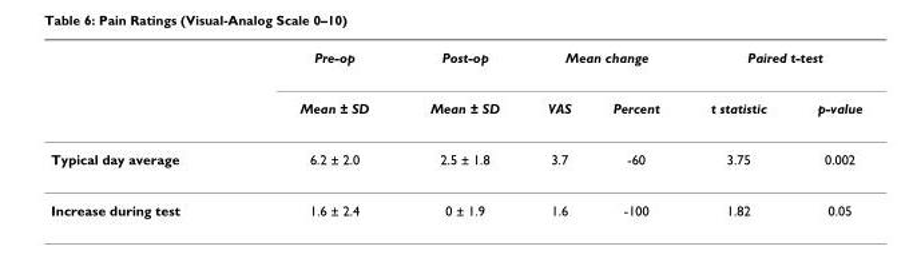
<table><thead><tr><td rowspan="2"></td><td rowspan="2">Pre-op Mean ± SD</td><td rowspan="2">Post-op Mean ± SD</td><td colspan="2">Mean change</td><td colspan="2">Paired t-test</td></tr><tr><td>VAS</td><td>Percent</td><td>t statistic</td><td>p-value</td></tr></thead><tbody><tr><td>Typical day average</td><td>6.2 ± 2.0</td><td>2.5 ± 1.8</td><td>3.7</td><td>-60</td><td>3.75</td><td>0.002</td></tr><tr><td>Increase during test</td><td>1.6 ± 2.4</td><td>0 ± 1.9</td><td>1.6</td><td>-100</td><td>1.82</td><td>0.05</td></tr></tbody></table>